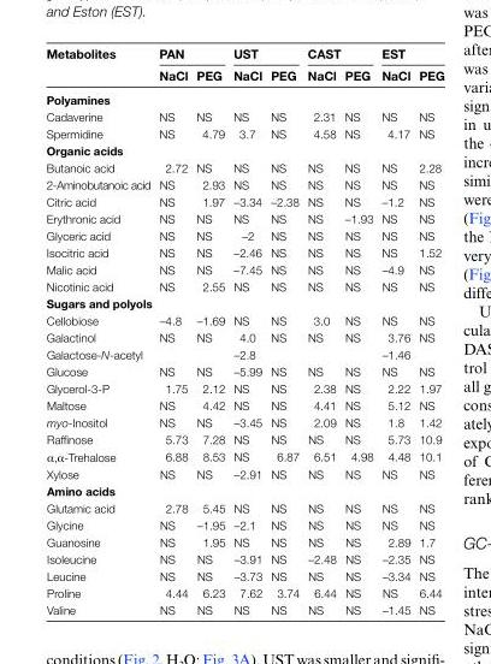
<table><thead><tr><td rowspan="2">Metabolites</td><td colspan="2">PAN</td><td colspan="2">UST</td><td colspan="2">CAST</td><td colspan="2">EST</td></tr><tr><td>NaCl</td><td>PEG</td><td>NaCl</td><td>PEG</td><td>NaCl</td><td>PEG</td><td>NaCl</td><td>PEG</td></tr></thead><tbody><tr><td colspan="9">Polyamines</td></tr><tr><td>Cadaverine</td><td>NS</td><td>NS</td><td>NS</td><td>NS</td><td>2.31</td><td>NS</td><td>NS</td><td>NS</td></tr><tr><td>Spermidine</td><td>NS</td><td>4.79</td><td>3.7</td><td>NS</td><td>4.58</td><td>NS</td><td>4.17</td><td>NS</td></tr><tr><td colspan="9">Organic acids</td></tr><tr><td>Butanoic acid</td><td>2.72</td><td>NS</td><td>NS</td><td>NS</td><td>NS</td><td>NS</td><td>NS</td><td>2.28</td></tr><tr><td>2-Aminobutanoic acid</td><td>NS</td><td>2.93</td><td>NS</td><td>NS</td><td>NS</td><td>NS</td><td>NS</td><td>NS</td></tr><tr><td>Citric acid</td><td>NS</td><td>1.97</td><td>–3.34</td><td>–2.38</td><td>NS</td><td>NS</td><td>–1.2</td><td>NS</td></tr><tr><td>Erythronic acid</td><td>NS</td><td>NS</td><td>NS</td><td>NS</td><td>NS</td><td>–1.93</td><td>NS</td><td>NS</td></tr><tr><td>Glyceric acid</td><td>NS</td><td>NS</td><td>–2</td><td>NS</td><td>NS</td><td>NS</td><td>NS</td><td>NS</td></tr><tr><td>Isocitric acid</td><td>NS</td><td>NS</td><td>–2.46</td><td>NS</td><td>NS</td><td>NS</td><td>NS</td><td>1.52</td></tr><tr><td>Malic acid</td><td>NS</td><td>NS</td><td>–7.45</td><td>NS</td><td>NS</td><td>NS</td><td>–4.9</td><td>NS</td></tr><tr><td>Nicotinic acid</td><td>NS</td><td>2.55</td><td>NS</td><td>NS</td><td>NS</td><td>NS</td><td>NS</td><td>NS</td></tr><tr><td colspan="9">Sugars and polyols</td></tr><tr><td>Cellobiose</td><td>–4.8</td><td>–1.69</td><td>NS</td><td>NS</td><td>3.0</td><td>NS</td><td>NS</td><td>NS</td></tr><tr><td>Galactinol</td><td>NS</td><td>NS</td><td>4.0</td><td>NS</td><td>NS</td><td>NS</td><td>3.76</td><td>NS</td></tr><tr><td>Galactose-N-acetyl</td><td></td><td></td><td>–2.8</td><td></td><td></td><td></td><td>–1.46</td><td></td></tr><tr><td>Glucose</td><td>NS</td><td>NS</td><td>–5.99</td><td>NS</td><td>NS</td><td>NS</td><td>NS</td><td>NS</td></tr><tr><td>Glycerol-3-P</td><td>1.75</td><td>2.12</td><td>NS</td><td>NS</td><td>2.38</td><td>NS</td><td>2.22</td><td>1.97</td></tr><tr><td>Maltose</td><td>NS</td><td>4.42</td><td>NS</td><td>NS</td><td>4.41</td><td>NS</td><td>5.12</td><td>NS</td></tr><tr><td>myo-Inositol</td><td>NS</td><td>NS</td><td>–3.45</td><td>NS</td><td>2.09</td><td>NS</td><td>1.8</td><td>1.42</td></tr><tr><td>Raffinose</td><td>5.73</td><td>7.28</td><td>NS</td><td>NS</td><td>NS</td><td>NS</td><td>5.73</td><td>10.9</td></tr><tr><td>α,α-Trehalose</td><td>6.88</td><td>8.53</td><td>NS</td><td>6.87</td><td>6.51</td><td>4.98</td><td>4.48</td><td>10.1</td></tr><tr><td>Xylose</td><td>NS</td><td>NS</td><td>–2.91</td><td>NS</td><td>NS</td><td>NS</td><td>NS</td><td>NS</td></tr><tr><td colspan="9">Amino acids</td></tr><tr><td>Glutamic acid</td><td>2.78</td><td>5.45</td><td>NS</td><td>NS</td><td>NS</td><td>NS</td><td>NS</td><td>NS</td></tr><tr><td>Glycine</td><td>NS</td><td>–1.95</td><td>–2.1</td><td>NS</td><td>NS</td><td>NS</td><td>NS</td><td>NS</td></tr><tr><td>Guanosine</td><td>NS</td><td>1.95</td><td>NS</td><td>NS</td><td>NS</td><td>NS</td><td>2.89</td><td>1.7</td></tr><tr><td>Isoleucine</td><td>NS</td><td>NS</td><td>–3.91</td><td>NS</td><td>–2.48</td><td>NS</td><td>–2.35</td><td>NS</td></tr><tr><td>Leucine</td><td>NS</td><td>NS</td><td>–3.73</td><td>NS</td><td>NS</td><td>NS</td><td>–3.34</td><td>NS</td></tr><tr><td>Proline</td><td>4.44</td><td>6.23</td><td>7.62</td><td>3.74</td><td>6.44</td><td>NS</td><td>NS</td><td>6.44</td></tr><tr><td>Valine</td><td>NS</td><td>NS</td><td>NS</td><td>NS</td><td>NS</td><td>NS</td><td>–1.45</td><td>NS</td></tr></tbody></table>